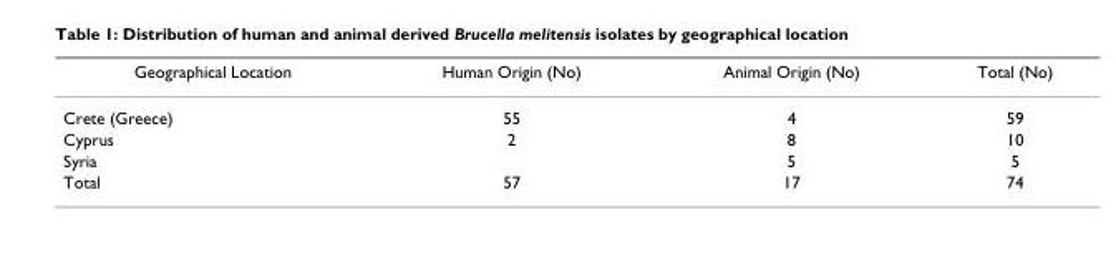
<table><thead><tr><td>Geographical Location</td><td>Human Origin (No)</td><td>Animal Origin (No)</td><td>Total (No)</td></tr></thead><tbody><tr><td>Crete (Greece)</td><td>55</td><td>4</td><td>59</td></tr><tr><td>Cyprus</td><td>2</td><td>8</td><td>10</td></tr><tr><td>Syria</td><td></td><td>5</td><td>5</td></tr><tr><td>Total</td><td>57</td><td>17</td><td>74</td></tr></tbody></table>